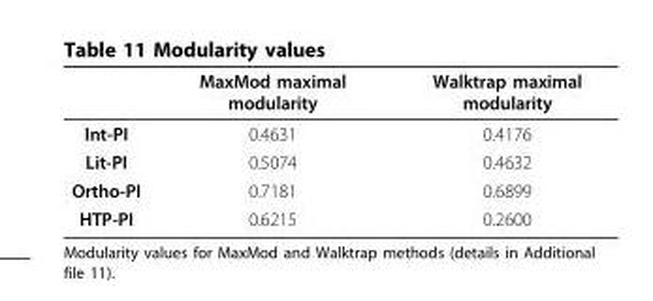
<table><thead><tr><td></td><td>MaxMod maximal modularity</td><td>Walktrap maximal modularity</td></tr></thead><tbody><tr><td>Int-PI</td><td>0.4631</td><td>0.4176</td></tr><tr><td>Lit-PI</td><td>0.5074</td><td>0.4632</td></tr><tr><td>Ortho-PI</td><td>0.7181</td><td>0.6899</td></tr><tr><td>HTP-PI</td><td>0.6215</td><td>0.2600</td></tr></tbody></table>